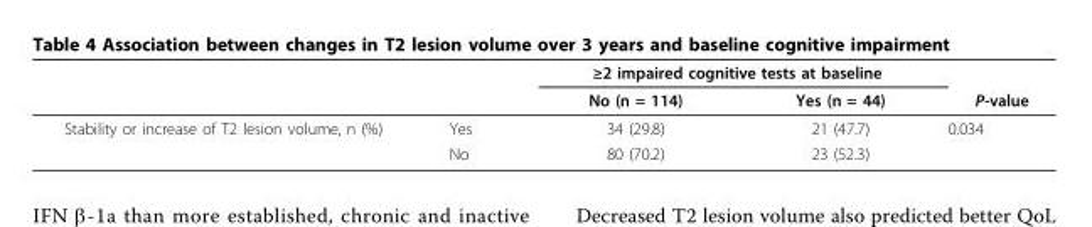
<table><thead><tr><td rowspan="2"></td><td rowspan="2"></td><td colspan="2">≥2 impaired cognitive tests at baseline</td><td rowspan="2">P-value</td></tr><tr><td>No (n = 114)</td><td>Yes (n = 44)</td></tr></thead><tbody><tr><td rowspan="2">Stability or increase of T2 lesion volume, n (%)</td><td>Yes</td><td>34 (29.8)</td><td>21 (47.7)</td><td>0.034</td></tr><tr><td>No</td><td>80 (70.2)</td><td>23 (52.3)</td><td></td></tr></tbody></table>